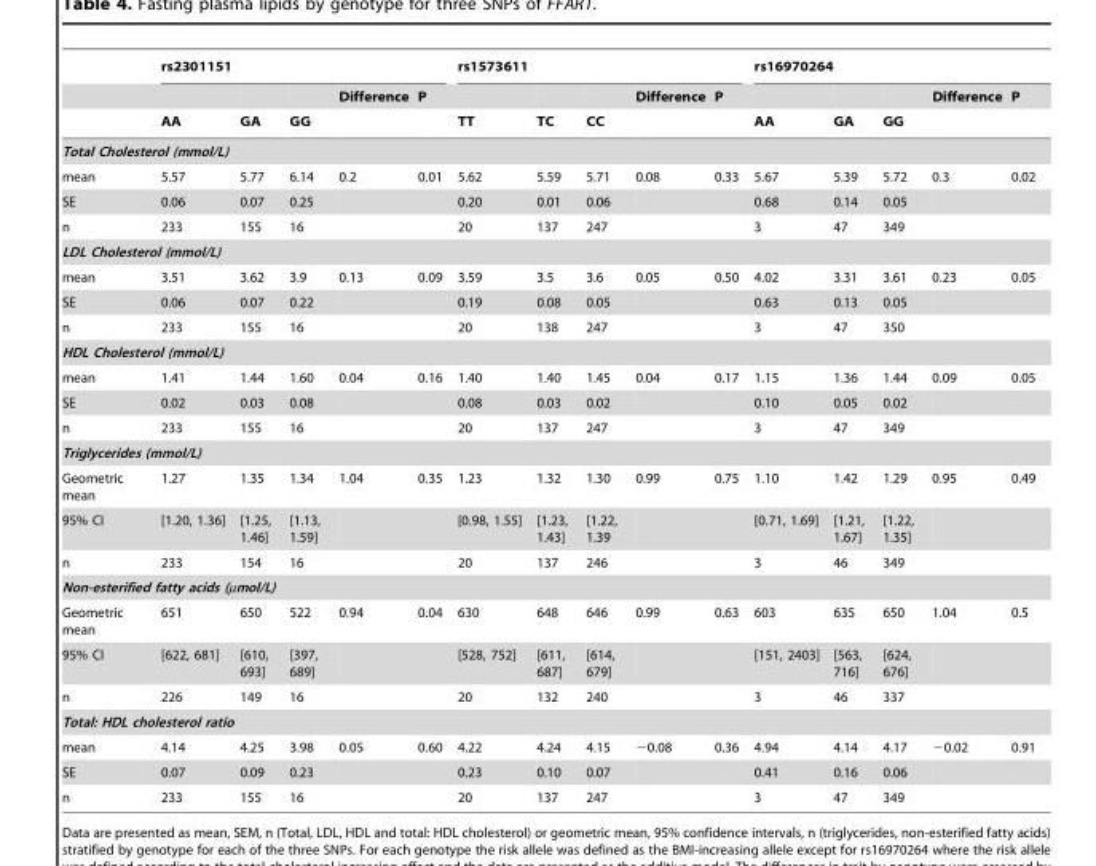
<table><thead><tr><td rowspan="3"></td><td colspan="5">rs2301151</td><td colspan="5">rs1573611</td><td colspan="5">rs16970264</td></tr><tr><td rowspan="2">AA</td><td rowspan="2">GA</td><td rowspan="2">GG</td><td rowspan="2">Difference</td><td rowspan="2">P</td><td rowspan="2">TT</td><td rowspan="2">TC</td><td rowspan="2">CC</td><td rowspan="2">Difference</td><td rowspan="2">P</td><td rowspan="2">AA</td><td rowspan="2">GA</td><td rowspan="2">GG</td><td rowspan="2">Difference</td><td rowspan="2">P</td></tr><tr></tr></thead><tbody><tr><td colspan="16">Total Cholesterol (mmol/L)</td></tr><tr><td>mean</td><td>5.57</td><td>5.77</td><td>6.14</td><td>0.2</td><td>0.01</td><td>5.62</td><td>5.59</td><td>5.71</td><td>0.08</td><td>0.33</td><td>5.67</td><td>5.39</td><td>5.72</td><td>0.3</td><td>0.02</td></tr><tr><td>SE</td><td>0.06</td><td>0.07</td><td>0.25</td><td></td><td></td><td>0.20</td><td>0.01</td><td>0.06</td><td></td><td></td><td>0.68</td><td>0.14</td><td>0.05</td><td></td><td></td></tr><tr><td>n</td><td>233</td><td>155</td><td>16</td><td></td><td></td><td>20</td><td>137</td><td>247</td><td></td><td></td><td>3</td><td>47</td><td>349</td><td></td><td></td></tr><tr><td colspan="16">LDL Cholesterol (mmol/L)</td></tr><tr><td>mean</td><td>3.51</td><td>3.62</td><td>3.9</td><td>0.13</td><td>0.09</td><td>3.59</td><td>3.5</td><td>3.6</td><td>0.05</td><td>0.50</td><td>4.02</td><td>3.31</td><td>3.61</td><td>0.23</td><td>0.05</td></tr><tr><td>SE</td><td>0.06</td><td>0.07</td><td>0.22</td><td></td><td></td><td>0.19</td><td>0.08</td><td>0.05</td><td></td><td></td><td>0.63</td><td>0.13</td><td>0.05</td><td></td><td></td></tr><tr><td>n</td><td>233</td><td>155</td><td>16</td><td></td><td></td><td>20</td><td>138</td><td>247</td><td></td><td></td><td>3</td><td>47</td><td>350</td><td></td><td></td></tr><tr><td colspan="16">HDL Cholesterol (mmol/L)</td></tr><tr><td>mean</td><td>1.41</td><td>1.44</td><td>1.60</td><td>0.04</td><td>0.16</td><td>1.40</td><td>1.40</td><td>1.45</td><td>0.04</td><td>0.17</td><td>1.15</td><td>1.36</td><td>1.44</td><td>0.09</td><td>0.05</td></tr><tr><td>SE</td><td>0.02</td><td>0.03</td><td>0.08</td><td></td><td></td><td>0.08</td><td>0.03</td><td>0.02</td><td></td><td></td><td>0.10</td><td>0.05</td><td>0.02</td><td></td><td></td></tr><tr><td>n</td><td>233</td><td>155</td><td>16</td><td></td><td></td><td>20</td><td>137</td><td>247</td><td></td><td></td><td>3</td><td>47</td><td>349</td><td></td><td></td></tr><tr><td colspan="16">Triglycerides (mmol/L)</td></tr><tr><td>Geometric mean</td><td>1.27</td><td>1.35</td><td>1.34</td><td>1.04</td><td>0.35</td><td>1.23</td><td>1.32</td><td>1.30</td><td>0.99</td><td>0.75</td><td>1.10</td><td>1.42</td><td>1.29</td><td>0.95</td><td>0.49</td></tr><tr><td>95% CI</td><td>[1.20, 1.36]</td><td>[1.25, 1.46]</td><td>[1.13, 1.59]</td><td></td><td></td><td>[0.98, 1.55]</td><td>[1.23, 1.43]</td><td>[1.22, 1.39</td><td></td><td></td><td>[0.71, 1.69]</td><td>[1.21, 1.67]</td><td>[1.22, 1.35]</td><td></td><td></td></tr><tr><td>n</td><td>233</td><td>154</td><td>16</td><td></td><td></td><td>20</td><td>137</td><td>246</td><td></td><td></td><td>3</td><td>46</td><td>349</td><td></td><td></td></tr><tr><td colspan="16">Non-esterified fatty acids (µmol/L)</td></tr><tr><td>Geometric mean</td><td>651</td><td>650</td><td>522</td><td>0.94</td><td>0.04</td><td>630</td><td>648</td><td>646</td><td>0.99</td><td>0.63</td><td>603</td><td>635</td><td>650</td><td>1.04</td><td>0.5</td></tr><tr><td>95% CI</td><td>[622, 681]</td><td>[610, 693]</td><td>[397, 689]</td><td></td><td></td><td>[528, 752]</td><td>[611, 687]</td><td>[614, 679]</td><td></td><td></td><td>[151, 2403]</td><td>[563, 716]</td><td>[624, 676]</td><td></td><td></td></tr><tr><td>n</td><td>226</td><td>149</td><td>16</td><td></td><td></td><td>20</td><td>132</td><td>240</td><td></td><td></td><td>3</td><td>46</td><td>337</td><td></td><td></td></tr><tr><td colspan="16">Total: HDL cholesterol ratio</td></tr><tr><td>mean</td><td>4.14</td><td>4.25</td><td>3.98</td><td>0.05</td><td>0.60</td><td>4.22</td><td>4.24</td><td>4.15</td><td>−0.08</td><td>0.36</td><td>4.94</td><td>4.14</td><td>4.17</td><td>−0.02</td><td>0.91</td></tr><tr><td>SE</td><td>0.07</td><td>0.09</td><td>0.23</td><td></td><td></td><td>0.23</td><td>0.10</td><td>0.07</td><td></td><td></td><td>0.41</td><td>0.16</td><td>0.06</td><td></td><td></td></tr><tr><td>n</td><td>233</td><td>155</td><td>16</td><td></td><td></td><td>20</td><td>137</td><td>247</td><td></td><td></td><td>3</td><td>47</td><td>349</td><td></td><td></td></tr></tbody></table>